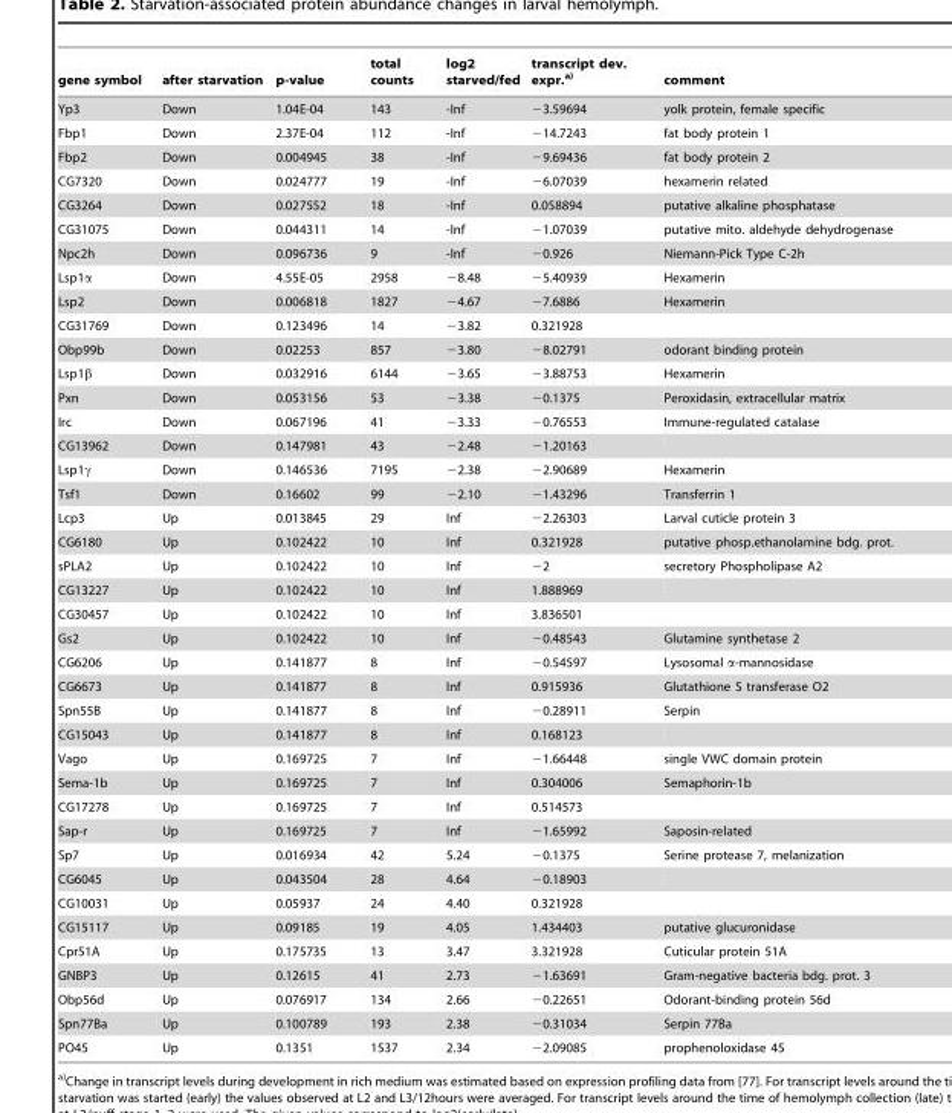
<table><thead><tr><td>gene symbol</td><td>after starvation</td><td>p-value</td><td>total counts</td><td>log2 starved/fed</td><td>transcript dev. expr.a)</td><td>comment</td></tr></thead><tbody><tr><td>Yp3</td><td>Down</td><td>1.04E-04</td><td>143</td><td>-Inf</td><td>−3.59694</td><td>yolk protein, female specific</td></tr><tr><td>Fbp1</td><td>Down</td><td>2.37E-04</td><td>112</td><td>-Inf</td><td>−14.7243</td><td>fat body protein 1</td></tr><tr><td>Fbp2</td><td>Down</td><td>0.004945</td><td>38</td><td>-Inf</td><td>−9.69436</td><td>fat body protein 2</td></tr><tr><td>CG7320</td><td>Down</td><td>0.024777</td><td>19</td><td>-Inf</td><td>−6.07039</td><td>hexamerin related</td></tr><tr><td>CG3264</td><td>Down</td><td>0.027552</td><td>18</td><td>-Inf</td><td>0.058894</td><td>putative alkaline phosphatase</td></tr><tr><td>CG31075</td><td>Down</td><td>0.044311</td><td>14</td><td>-Inf</td><td>−1.07039</td><td>putative mito. aldehyde dehydrogenase</td></tr><tr><td>Npc2h</td><td>Down</td><td>0.096736</td><td>9</td><td>-Inf</td><td>−0.926</td><td>Niemann-Pick Type C-2h</td></tr><tr><td>Lsp1α</td><td>Down</td><td>4.55E-05</td><td>2958</td><td>−8.48</td><td>−5.40939</td><td>Hexamerin</td></tr><tr><td>Lsp2</td><td>Down</td><td>0.006818</td><td>1827</td><td>−4.67</td><td>−7.6886</td><td>Hexamerin</td></tr><tr><td>CG31769</td><td>Down</td><td>0.123496</td><td>14</td><td>−3.82</td><td>0.321928</td><td></td></tr><tr><td>Obp99b</td><td>Down</td><td>0.02253</td><td>857</td><td>−3.80</td><td>−8.02791</td><td>odorant binding protein</td></tr><tr><td>Lsp1β</td><td>Down</td><td>0.032916</td><td>6144</td><td>−3.65</td><td>−3.88753</td><td>Hexamerin</td></tr><tr><td>Pxn</td><td>Down</td><td>0.053156</td><td>53</td><td>−3.38</td><td>−0.1375</td><td>Peroxidasin, extracellular matrix</td></tr><tr><td>Irc</td><td>Down</td><td>0.067196</td><td>41</td><td>−3.33</td><td>−0.76553</td><td>Immune-regulated catalase</td></tr><tr><td>CG13962</td><td>Down</td><td>0.147981</td><td>43</td><td>−2.48</td><td>−1.20163</td><td></td></tr><tr><td>Lsp1γ</td><td>Down</td><td>0.146536</td><td>7195</td><td>−2.38</td><td>−2.90689</td><td>Hexamerin</td></tr><tr><td>Tsf1</td><td>Down</td><td>0.16602</td><td>99</td><td>−2.10</td><td>−1.43296</td><td>Transferrin 1</td></tr><tr><td>Lcp3</td><td>Up</td><td>0.013845</td><td>29</td><td>Inf</td><td>−2.26303</td><td>Larval cuticle protein 3</td></tr><tr><td>CG6180</td><td>Up</td><td>0.102422</td><td>10</td><td>Inf</td><td>0.321928</td><td>putative phosp.ethanolamine bdg. prot.</td></tr><tr><td>sPLA2</td><td>Up</td><td>0.102422</td><td>10</td><td>Inf</td><td>−2</td><td>secretory Phospholipase A2</td></tr><tr><td>CG13227</td><td>Up</td><td>0.102422</td><td>10</td><td>Inf</td><td>1.888969</td><td></td></tr><tr><td>CG30457</td><td>Up</td><td>0.102422</td><td>10</td><td>Inf</td><td>3.836501</td><td></td></tr><tr><td>Gs2</td><td>Up</td><td>0.102422</td><td>10</td><td>Inf</td><td>−0.48543</td><td>Glutamine synthetase 2</td></tr><tr><td>CG6206</td><td>Up</td><td>0.141877</td><td>8</td><td>Inf</td><td>−0.54597</td><td>Lysosomal α-mannosidase</td></tr><tr><td>CG6673</td><td>Up</td><td>0.141877</td><td>8</td><td>Inf</td><td>0.915936</td><td>Glutathione S transferase O2</td></tr><tr><td>Spn55B</td><td>Up</td><td>0.141877</td><td>8</td><td>Inf</td><td>−0.28911</td><td>Serpin</td></tr><tr><td>CG15043</td><td>Up</td><td>0.141877</td><td>8</td><td>Inf</td><td>0.168123</td><td></td></tr><tr><td>Vago</td><td>Up</td><td>0.169725</td><td>7</td><td>Inf</td><td>−1.66448</td><td>single VWC domain protein</td></tr><tr><td>Sema-1b</td><td>Up</td><td>0.169725</td><td>7</td><td>Inf</td><td>0.304006</td><td>Semaphorin-1b</td></tr><tr><td>CG17278</td><td>Up</td><td>0.169725</td><td>7</td><td>Inf</td><td>0.514573</td><td></td></tr><tr><td>Sap-r</td><td>Up</td><td>0.169725</td><td>7</td><td>Inf</td><td>−1.65992</td><td>Saposin-related</td></tr><tr><td>Sp7</td><td>Up</td><td>0.016934</td><td>42</td><td>5.24</td><td>−0.1375</td><td>Serine protease 7, melanization</td></tr><tr><td>CG6045</td><td>Up</td><td>0.043504</td><td>28</td><td>4.64</td><td>−0.18903</td><td></td></tr><tr><td>CG10031</td><td>Up</td><td>0.05937</td><td>24</td><td>4.40</td><td>0.321928</td><td></td></tr><tr><td>CG15117</td><td>Up</td><td>0.09185</td><td>19</td><td>4.05</td><td>1.434403</td><td>putative glucuronidase</td></tr><tr><td>Cpr51A</td><td>Up</td><td>0.175735</td><td>13</td><td>3.47</td><td>3.321928</td><td>Cuticular protein 51A</td></tr><tr><td>GNBP3</td><td>Up</td><td>0.12615</td><td>41</td><td>2.73</td><td>−1.63691</td><td>Gram-negative bacteria bdg. prot. 3</td></tr><tr><td>Obp56d</td><td>Up</td><td>0.076917</td><td>134</td><td>2.66</td><td>−0.22651</td><td>Odorant-binding protein 56d</td></tr><tr><td>Spn77Ba</td><td>Up</td><td>0.100789</td><td>193</td><td>2.38</td><td>−0.31034</td><td>Serpin 77Ba</td></tr><tr><td>PO45</td><td>Up</td><td>0.1351</td><td>1537</td><td>2.34</td><td>−2.09085</td><td>prophenoloxidase 45</td></tr></tbody></table>